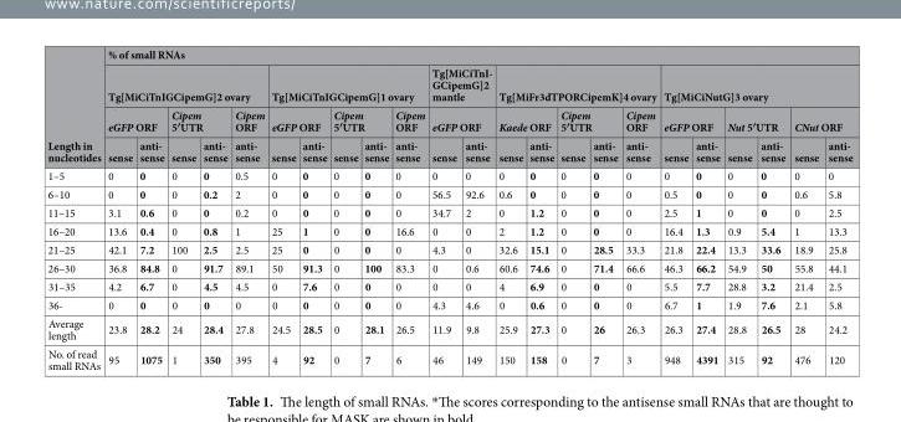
<table><thead><tr><td rowspan="4">Length in nucleotides</td><td colspan="23">% of small RNAs</td></tr><tr><td colspan="5">Tg[MiCiTnIGCipemG]2 ovary</td><td colspan="5">Tg[MiCiTnIGCipemG]1 ovary</td><td rowspan="2" colspan="2">Tg[MiCiTnI- GCipemG]2 mantle eGFP ORF</td><td colspan="5">Tg[MiFr3dTPORCipemK]4 ovary</td><td colspan="6">Tg[MiCiNutG]3 ovary</td></tr><tr><td colspan="2">eGFP ORF</td><td colspan="2">Cipem 5′UTR</td><td rowspan="2">Cipem ORF anti- sense</td><td colspan="2">eGFP ORF</td><td colspan="2">Cipem 5′UTR</td><td rowspan="2">Cipem ORF anti- sense</td><td colspan="2">Kaede ORF</td><td colspan="2">Cipem 5′UTR</td><td rowspan="2">Cipem ORF anti- sense</td><td colspan="2">eGFP ORF</td><td colspan="2">Nut 5′UTR</td><td colspan="2">CNut ORF</td></tr><tr><td>sense</td><td>anti- sense</td><td>sense</td><td>anti- sense</td><td>sense</td><td>anti- sense</td><td>sense</td><td>anti- sense</td><td>sense</td><td>anti- sense</td><td>sense</td><td>anti- sense</td><td>sense</td><td>anti- sense</td><td>sense</td><td>anti- sense</td><td>sense</td><td>anti- sense</td><td>sense</td><td>anti- sense</td></tr></thead><tbody><tr><td>1–5</td><td>0</td><td>0</td><td>0</td><td>0</td><td>0.5</td><td>0</td><td>0</td><td>0</td><td>0</td><td>0</td><td>0</td><td>0</td><td>0</td><td>0</td><td>0</td><td>0</td><td>0</td><td>0</td><td>0</td><td>0</td><td>0</td><td>0</td><td>0</td></tr><tr><td>6–10</td><td>0</td><td>0</td><td>0</td><td>0.2</td><td>2</td><td>0</td><td>0</td><td>0</td><td>0</td><td>0</td><td>56.5</td><td>92.6</td><td>0.6</td><td>0</td><td>0</td><td>0</td><td>0</td><td>0.5</td><td>0</td><td>0</td><td>0</td><td>0.6</td><td>5.8</td></tr><tr><td>11–15</td><td>3.1</td><td>0.6</td><td>0</td><td>0</td><td>0.2</td><td>0</td><td>0</td><td>0</td><td>0</td><td>0</td><td>34.7</td><td>2</td><td>0</td><td>1.2</td><td>0</td><td>0</td><td>0</td><td>2.5</td><td>1</td><td>0</td><td>0</td><td>0</td><td>2.5</td></tr><tr><td>16–20</td><td>13.6</td><td>0.4</td><td>0</td><td>0.8</td><td>1</td><td>25</td><td>1</td><td>0</td><td>0</td><td>16.6</td><td>0</td><td>0</td><td>2</td><td>1.2</td><td>0</td><td>0</td><td>0</td><td>16.4</td><td>1.3</td><td>0.9</td><td>5.4</td><td>1</td><td>13.3</td></tr><tr><td>21–25</td><td>42.1</td><td>7.2</td><td>100</td><td>2.5</td><td>2.5</td><td>25</td><td>0</td><td>0</td><td>0</td><td>0</td><td>4.3</td><td>0</td><td>32.6</td><td>15.1</td><td>0</td><td>28.5</td><td>33.3</td><td>21.8</td><td>22.4</td><td>13.3</td><td>33.6</td><td>18.9</td><td>25.8</td></tr><tr><td>26–30</td><td>36.8</td><td>84.8</td><td>0</td><td>91.7</td><td>89.1</td><td>50</td><td>91.3</td><td>0</td><td>100</td><td>83.3</td><td>0</td><td>0.6</td><td>60.6</td><td>74.6</td><td>0</td><td>71.4</td><td>66.6</td><td>46.3</td><td>66.2</td><td>54.9</td><td>50</td><td>55.8</td><td>44.1</td></tr><tr><td>31–35</td><td>4.2</td><td>6.7</td><td>0</td><td>4.5</td><td>4.5</td><td>0</td><td>7.6</td><td>0</td><td>0</td><td>0</td><td>0</td><td>0</td><td>4</td><td>6.9</td><td>0</td><td>0</td><td>0</td><td>5.5</td><td>7.7</td><td>28.8</td><td>3.2</td><td>21.4</td><td>2.5</td></tr><tr><td>36-</td><td>0</td><td>0</td><td>0</td><td>0</td><td>0</td><td>0</td><td>0</td><td>0</td><td>0</td><td>0</td><td>4.3</td><td>4.6</td><td>0</td><td>0.6</td><td>0</td><td>0</td><td>0</td><td>6.7</td><td>1</td><td>1.9</td><td>7.6</td><td>2.1</td><td>5.8</td></tr><tr><td>Average length</td><td>23.8</td><td>28.2</td><td>24</td><td>28.4</td><td>27.8</td><td>24.5</td><td>28.5</td><td>0</td><td>28.1</td><td>26.5</td><td>11.9</td><td>9.8</td><td>25.9</td><td>27.3</td><td>0</td><td>26</td><td>26.3</td><td>26.3</td><td>27.4</td><td>28.8</td><td>26.5</td><td>28</td><td>24.2</td></tr><tr><td>No. of read small RNAs</td><td>95</td><td>1075</td><td>1</td><td>350</td><td>395</td><td>4</td><td>92</td><td>0</td><td>7</td><td>6</td><td>46</td><td>149</td><td>150</td><td>158</td><td>0</td><td>7</td><td>3</td><td>948</td><td>4391</td><td>315</td><td>92</td><td>476</td><td>120</td></tr></tbody></table>